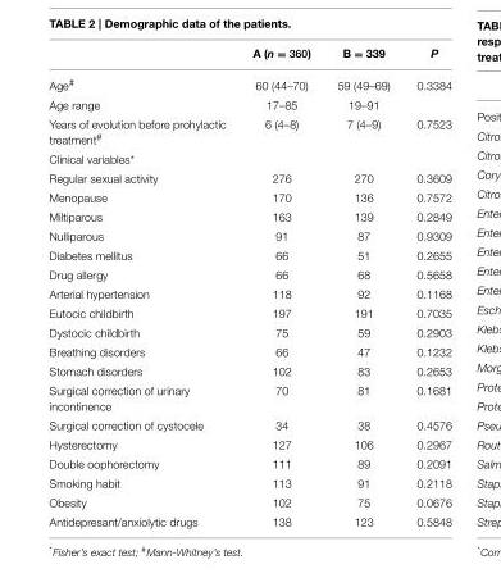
<table><thead><tr><td></td><td>A (n = 360)</td><td>B = 339</td><td>P</td></tr></thead><tbody><tr><td>Age<sup>#</sup></td><td>60 (44–70)</td><td>59 (49–69)</td><td>0.3384</td></tr><tr><td>Age range</td><td>17–85</td><td>19–91</td><td></td></tr><tr><td>Years of evolution before prohylactic treatment<sup>#</sup></td><td>6 (4–8)</td><td>7 (4–9)</td><td>0.7523</td></tr><tr><td colspan="4">Clinical variables*</td></tr><tr><td>Regular sexual activity</td><td>276</td><td>270</td><td>0.3609</td></tr><tr><td>Menopause</td><td>170</td><td>136</td><td>0.7572</td></tr><tr><td>Miltiparous</td><td>163</td><td>139</td><td>0.2849</td></tr><tr><td>Nulliparous</td><td>91</td><td>87</td><td>0.9309</td></tr><tr><td>Diabetes mellitus</td><td>66</td><td>51</td><td>0.2655</td></tr><tr><td>Drug allergy</td><td>66</td><td>68</td><td>0.5658</td></tr><tr><td>Arterial hypertension</td><td>118</td><td>92</td><td>0.1168</td></tr><tr><td>Eutocic childbirth</td><td>197</td><td>191</td><td>0.7035</td></tr><tr><td>Dystocic childbirth</td><td>75</td><td>59</td><td>0.2903</td></tr><tr><td>Breathing disorders</td><td>66</td><td>47</td><td>0.1232</td></tr><tr><td>Stomach disorders</td><td>102</td><td>83</td><td>0.2653</td></tr><tr><td>Surgical correction of urinary incontinence</td><td>70</td><td>81</td><td>0.1681</td></tr><tr><td>Surgical correction of cystocele</td><td>34</td><td>38</td><td>0.4576</td></tr><tr><td>Hysterectomy</td><td>127</td><td>106</td><td>0.2967</td></tr><tr><td>Double oophorectomy</td><td>111</td><td>89</td><td>0.2091</td></tr><tr><td>Smoking habit</td><td>113</td><td>91</td><td>0.2118</td></tr><tr><td>Obesity</td><td>102</td><td>75</td><td>0.0676</td></tr><tr><td>Antidepresant/anxiolytic drugs</td><td>138</td><td>123</td><td>0.5848</td></tr></tbody></table>